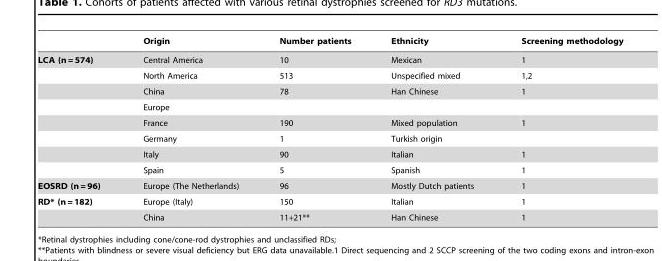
<table><thead><tr><td></td><td>Origin</td><td>Number patients</td><td>Ethnicity</td><td>Screening methodology</td></tr></thead><tbody><tr><td rowspan="8">LCA (n = 574)</td><td>Central America</td><td>10</td><td>Mexican</td><td>1</td></tr><tr><td>North America</td><td>513</td><td>Unspecified mixed</td><td>1,2</td></tr><tr><td>China</td><td>78</td><td>Han Chinese</td><td>1</td></tr><tr><td>Europe</td><td></td><td></td><td></td></tr><tr><td>France</td><td>190</td><td>Mixed population</td><td>1</td></tr><tr><td>Germany</td><td>1</td><td>Turkish origin</td><td></td></tr><tr><td>Italy</td><td>90</td><td>Italian</td><td>1</td></tr><tr><td>Spain</td><td>5</td><td>Spanish</td><td>1</td></tr><tr><td>EOSRD (n = 96)</td><td>Europe (The Netherlands)</td><td>96</td><td>Mostly Dutch patients</td><td>1</td></tr><tr><td rowspan="2">RD* (n = 182)</td><td>Europe (Italy)</td><td>150</td><td>Italian</td><td>1</td></tr><tr><td>China</td><td>11+21**</td><td>Han Chinese</td><td>1</td></tr></tbody></table>